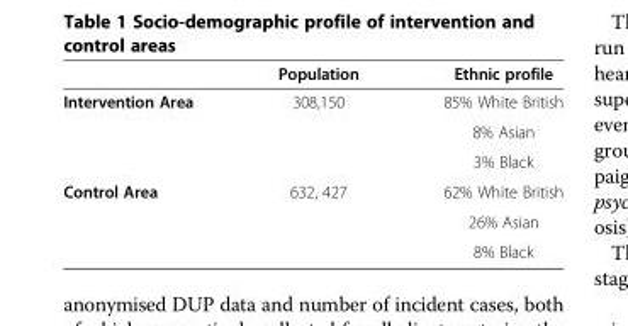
<table><thead><tr><td></td><td>Population</td><td>Ethnic profile</td></tr></thead><tbody><tr><td rowspan="3">Intervention Area</td><td>308,150</td><td>85% White British</td></tr><tr><td></td><td>8% Asian</td></tr><tr><td></td><td>3% Black</td></tr><tr><td rowspan="3">Control Area</td><td>632, 427</td><td>62% White British</td></tr><tr><td></td><td>26% Asian</td></tr><tr><td></td><td>8% Black</td></tr></tbody></table>